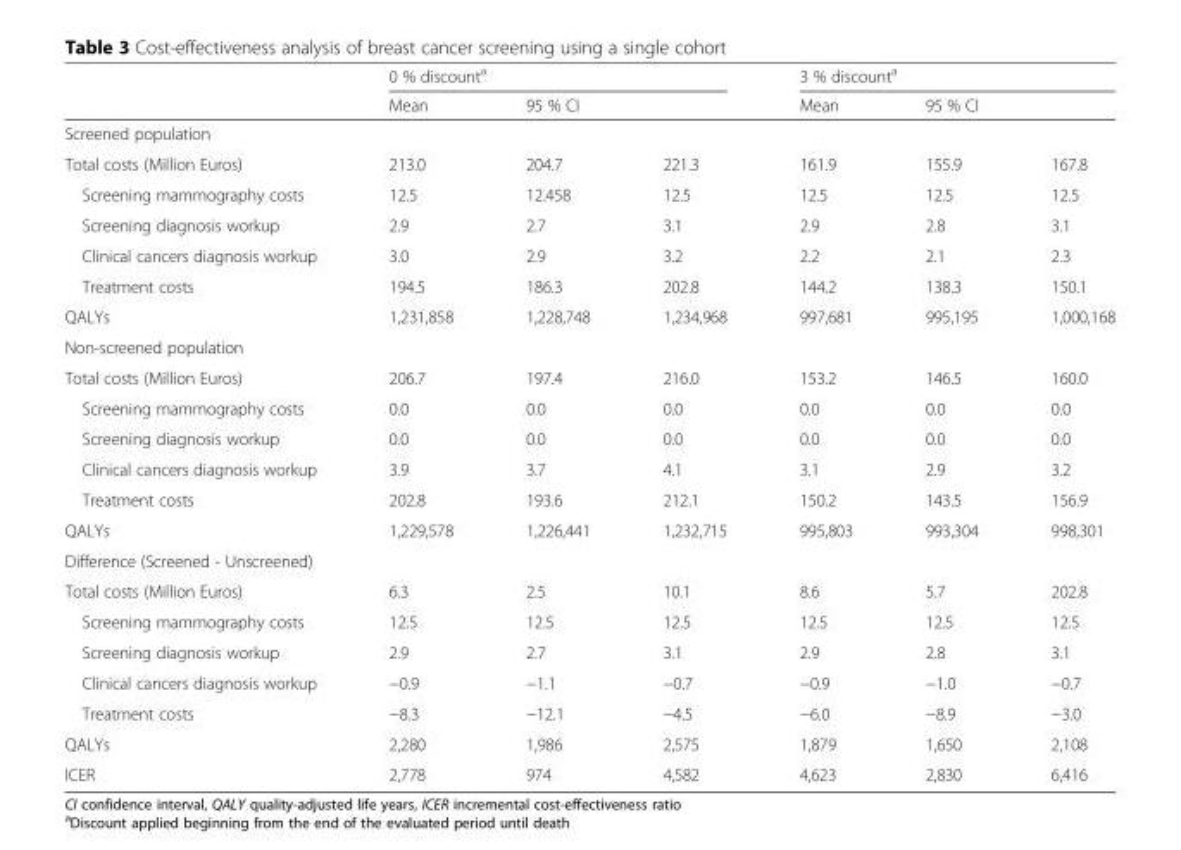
<table><thead><tr><td rowspan="2"></td><td colspan="3">0 % discount<sup>a</sup></td><td colspan="3">3 % discount<sup>a</sup></td></tr><tr><td>Mean</td><td colspan="2">95 % CI</td><td>Mean</td><td colspan="2">95 % CI</td></tr><tr><td colspan="7">Screened population</td></tr><tr><td>Total costs (Million Euros)</td><td>213.0</td><td>204.7</td><td>221.3</td><td>161.9</td><td>155.9</td><td>167.8</td></tr></thead><tbody><tr><td>Screening mammography costs</td><td>12.5</td><td>12.458</td><td>12.5</td><td>12.5</td><td>12.5</td><td>12.5</td></tr><tr><td>Screening diagnosis workup</td><td>2.9</td><td>2.7</td><td>3.1</td><td>2.9</td><td>2.8</td><td>3.1</td></tr><tr><td>Clinical cancers diagnosis workup</td><td>3.0</td><td>2.9</td><td>3.2</td><td>2.2</td><td>2.1</td><td>2.3</td></tr><tr><td>Treatment costs</td><td>194.5</td><td>186.3</td><td>202.8</td><td>144.2</td><td>138.3</td><td>150.1</td></tr><tr><td>QALYs</td><td>1,231,858</td><td>1,228,748</td><td>1,234,968</td><td>997,681</td><td>995,195</td><td>1,000,168</td></tr><tr><td colspan="7">Non-screened population</td></tr><tr><td>Total costs (Million Euros)</td><td>206.7</td><td>197.4</td><td>216.0</td><td>153.2</td><td>146.5</td><td>160.0</td></tr><tr><td>Screening mammography costs</td><td>0.0</td><td>0.0</td><td>0.0</td><td>0.0</td><td>0.0</td><td>0.0</td></tr><tr><td>Screening diagnosis workup</td><td>0.0</td><td>0.0</td><td>0.0</td><td>0.0</td><td>0.0</td><td>0.0</td></tr><tr><td>Clinical cancers diagnosis workup</td><td>3.9</td><td>3.7</td><td>4.1</td><td>3.1</td><td>2.9</td><td>3.2</td></tr><tr><td>Treatment costs</td><td>202.8</td><td>193.6</td><td>212.1</td><td>150.2</td><td>143.5</td><td>156.9</td></tr><tr><td>QALYs</td><td>1,229,578</td><td>1,226,441</td><td>1,232,715</td><td>995,803</td><td>993,304</td><td>998,301</td></tr><tr><td colspan="7">Difference (Screened - Unscreened)</td></tr><tr><td>Total costs (Million Euros)</td><td>6.3</td><td>2.5</td><td>10.1</td><td>8.6</td><td>5.7</td><td>202.8</td></tr><tr><td>Screening mammography costs</td><td>12.5</td><td>12.5</td><td>12.5</td><td>12.5</td><td>12.5</td><td>12.5</td></tr><tr><td>Screening diagnosis workup</td><td>2.9</td><td>2.7</td><td>3.1</td><td>2.9</td><td>2.8</td><td>3.1</td></tr><tr><td>Clinical cancers diagnosis workup</td><td>−0.9</td><td>−1.1</td><td>−0.7</td><td>−0.9</td><td>−1.0</td><td>−0.7</td></tr><tr><td>Treatment costs</td><td>−8.3</td><td>−12.1</td><td>−4.5</td><td>−6.0</td><td>−8.9</td><td>−3.0</td></tr><tr><td>QALYs</td><td>2,280</td><td>1,986</td><td>2,575</td><td>1,879</td><td>1,650</td><td>2,108</td></tr><tr><td>ICER</td><td>2,778</td><td>974</td><td>4,582</td><td>4,623</td><td>2,830</td><td>6,416</td></tr></tbody></table>